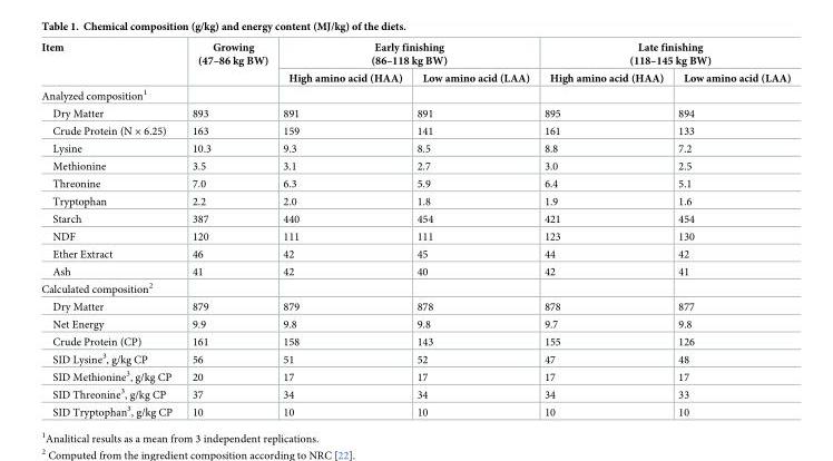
<table><thead><tr><td rowspan="2">Item</td><td rowspan="2">Growing (47–86 kg BW)</td><td colspan="2">Early finishing (86–118 kg BW)</td><td colspan="2">Late finishing (118–145 kg BW)</td></tr><tr><td>High amino acid (HAA)</td><td>Low amino acid (LAA)</td><td>High amino acid (HAA)</td><td>Low amino acid (LAA)</td></tr></thead><tbody><tr><td colspan="6">Analyzed composition<sup>1</sup></td></tr><tr><td>Dry Matter</td><td>893</td><td>891</td><td>891</td><td>895</td><td>894</td></tr><tr><td>Crude Protein (N × 6.25)</td><td>163</td><td>159</td><td>141</td><td>161</td><td>133</td></tr><tr><td>Lysine</td><td>10.3</td><td>9.3</td><td>8.5</td><td>8.8</td><td>7.2</td></tr><tr><td>Methionine</td><td>3.5</td><td>3.1</td><td>2.7</td><td>3.0</td><td>2.5</td></tr><tr><td>Threonine</td><td>7.0</td><td>6.3</td><td>5.9</td><td>6.4</td><td>5.1</td></tr><tr><td>Tryptophan</td><td>2.2</td><td>2.0</td><td>1.8</td><td>1.9</td><td>1.6</td></tr><tr><td>Starch</td><td>387</td><td>440</td><td>454</td><td>421</td><td>454</td></tr><tr><td>NDF</td><td>120</td><td>111</td><td>111</td><td>123</td><td>130</td></tr><tr><td>Ether Extract</td><td>46</td><td>42</td><td>45</td><td>44</td><td>42</td></tr><tr><td>Ash</td><td>41</td><td>42</td><td>40</td><td>42</td><td>41</td></tr><tr><td colspan="6">Calculated composition<sup>2</sup></td></tr><tr><td>Dry Matter</td><td>879</td><td>879</td><td>878</td><td>878</td><td>877</td></tr><tr><td>Net Energy</td><td>9.9</td><td>9.8</td><td>9.8</td><td>9.7</td><td>9.8</td></tr><tr><td>Crude Protein (CP)</td><td>161</td><td>158</td><td>143</td><td>155</td><td>126</td></tr><tr><td>SID Lysine<sup>3</sup>, g/kg CP</td><td>56</td><td>51</td><td>52</td><td>47</td><td>48</td></tr><tr><td>SID Methionine<sup>3</sup>, g/kg CP</td><td>20</td><td>17</td><td>17</td><td>17</td><td>17</td></tr><tr><td>SID Threonine<sup>3</sup>, g/kg CP</td><td>37</td><td>34</td><td>34</td><td>34</td><td>33</td></tr><tr><td>SID Tryptophan<sup>3</sup>, g/kg CP</td><td>10</td><td>10</td><td>10</td><td>10</td><td>10</td></tr></tbody></table>